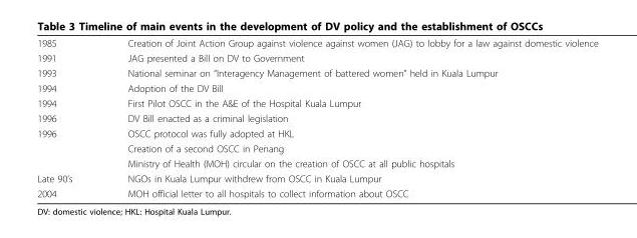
<table><tbody><tr><td>1985</td><td>Creation of Joint Action Group against violence against women (JAG) to lobby for a law against domestic violence</td></tr><tr><td>1991</td><td>JAG presented a Bill on DV to Government</td></tr><tr><td>1993</td><td>National seminar on “Interagency Management of battered women” held in Kuala Lumpur</td></tr><tr><td>1994</td><td>Adoption of the DV Bill</td></tr><tr><td>1994</td><td>First Pilot OSCC in the A&amp;E of the Hospital Kuala Lumpur</td></tr><tr><td>1996</td><td>DV Bill enacted as a criminal legislation</td></tr><tr><td rowspan="3">1996</td><td>OSCC protocol was fully adopted at HKL</td></tr><tr><td>Creation of a second OSCC in Penang</td></tr><tr><td>Ministry of Health (MOH) circular on the creation of OSCC at all public hospitals</td></tr><tr><td>Late 90’s</td><td>NGOs in Kuala Lumpur withdrew from OSCC in Kuala Lumpur</td></tr><tr><td>2004</td><td>MOH official letter to all hospitals to collect information about OSCC</td></tr></tbody></table>